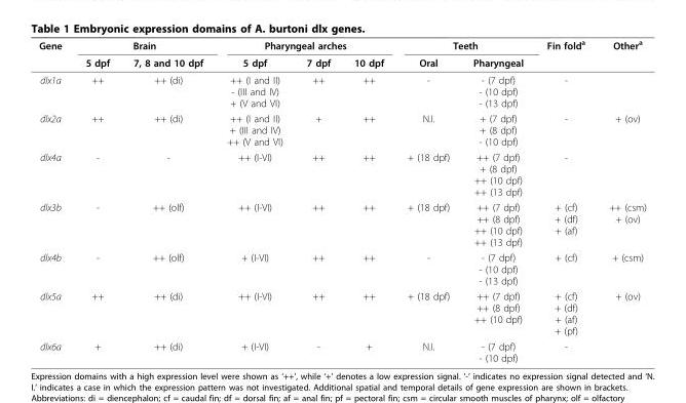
<table><thead><tr><td rowspan="2">Gene</td><td colspan="2">Brain</td><td colspan="3">Pharyngeal arches</td><td colspan="2">Teeth</td><td rowspan="2">Fin fold<sup>a</sup></td><td rowspan="2">Other<sup>a</sup></td></tr><tr><td>5 dpf</td><td>7, 8 and 10 dpf</td><td>5 dpf</td><td>7 dpf</td><td>10 dpf</td><td>Oral</td><td>Pharyngeal</td></tr></thead><tbody><tr><td>dlx1a</td><td>++</td><td>++ (di)</td><td>++ (I and II) - (III and IV) + (V and VI)</td><td>++</td><td>++</td><td>-</td><td>- (7 dpf) - (10 dpf) - (13 dpf)</td><td>-</td><td></td></tr><tr><td>dlx2a</td><td>++</td><td>++ (di)</td><td>++ (I and II) + (III and IV) ++ (V and VI)</td><td>+</td><td>++</td><td>N.I.</td><td>+ (7 dpf) + (8 dpf) - (10 dpf)</td><td>-</td><td>+ (ov)</td></tr><tr><td>dlx4a</td><td>-</td><td>-</td><td>++ (I-VI)</td><td>++</td><td>++</td><td>+ (18 dpf)</td><td>++ (7 dpf) + (8 dpf) ++ (10 dpf) ++ (13 dpf)</td><td>-</td><td></td></tr><tr><td>dlx3b</td><td>-</td><td>++ (olf)</td><td>++ (I-VI)</td><td>++</td><td>++</td><td>+ (18 dpf)</td><td>++ (7 dpf) ++ (8 dpf) ++ (10 dpf) ++ (13 dpf)</td><td>+ (cf) + (df) + (af)</td><td>++ (csm) + (ov)</td></tr><tr><td>dlx4b</td><td>-</td><td>++ (olf)</td><td>+ (I-VI)</td><td>++</td><td>++</td><td>-</td><td>- (7 dpf) - (10 dpf) - (13 dpf)</td><td>+ (cf)</td><td>+ (csm)</td></tr><tr><td>dlx5a</td><td>++</td><td>++ (di)</td><td>++ (I-VI)</td><td>++</td><td>++</td><td>+ (18 dpf)</td><td>++ (7 dpf) ++ (8 dpf) ++ (10 dpf)</td><td>+ (cf) + (df) + (af) + (pf)</td><td>+ (ov)</td></tr><tr><td>dlx6a</td><td>+</td><td>++ (di)</td><td>+ (I-VI)</td><td>-</td><td>+</td><td>N.I.</td><td>- (7 dpf) - (10 dpf)</td><td>-</td><td></td></tr></tbody></table>